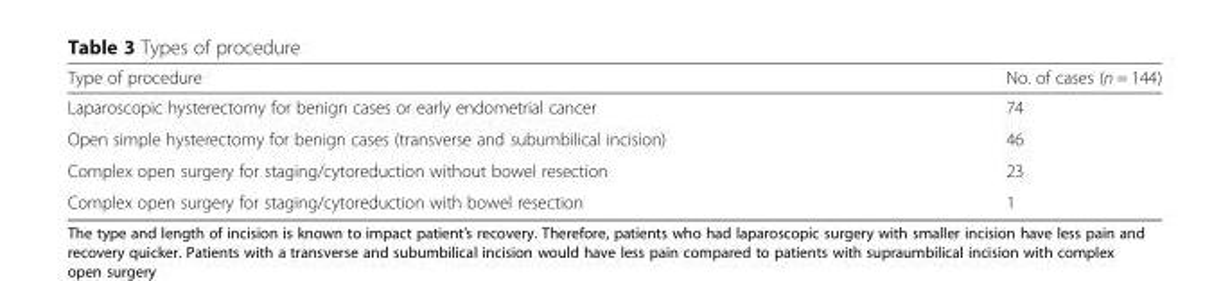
<table><thead><tr><td>Type of procedure</td><td>No. of cases (n = 144)</td></tr></thead><tbody><tr><td>Laparoscopic hysterectomy for benign cases or early endometrial cancer</td><td>74</td></tr><tr><td>Open simple hysterectomy for benign cases (transverse and subumbilical incision)</td><td>46</td></tr><tr><td>Complex open surgery for staging/cytoreduction without bowel resection</td><td>23</td></tr><tr><td>Complex open surgery for staging/cytoreduction with bowel resection</td><td>1</td></tr></tbody></table>